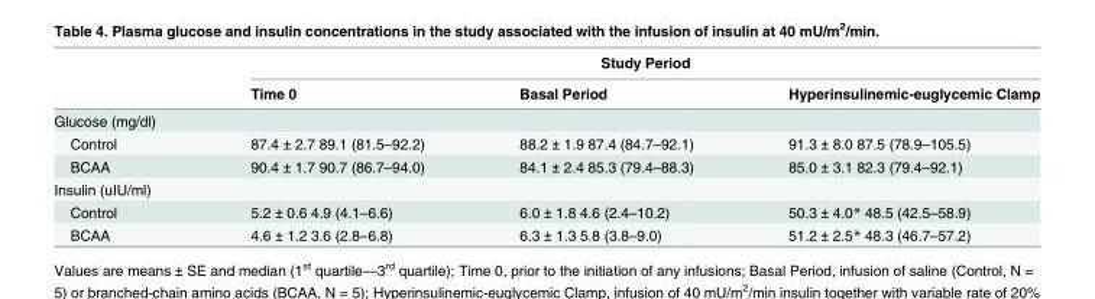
<table><thead><tr><td rowspan="2"></td><td colspan="3">Study Period</td></tr><tr><td>Time 0</td><td>Basal Period</td><td>Hyperinsulinemic-euglycemic Clamp</td></tr></thead><tbody><tr><td colspan="4">Glucose (mg/dl)</td></tr><tr><td>Control</td><td>87.4 ± 2.7 89.1 (81.5–92.2)</td><td>88.2 ± 1.9 87.4 (84.7–92.1)</td><td>91.3 ± 8.0 87.5 (78.9–105.5)</td></tr><tr><td>BCAA</td><td>90.4 ± 1.7 90.7 (86.7–94.0)</td><td>84.1 ± 2.4 85.3 (79.4–88.3)</td><td>85.0 ± 3.1 82.3 (79.4–92.1)</td></tr><tr><td colspan="4">Insulin (uIU/ml)</td></tr><tr><td>Control</td><td>5.2 ± 0.6 4.9 (4.1–6.6)</td><td>6.0 ± 1.8 4.6 (2.4–10.2)</td><td>50.3 ± 4.0* 48.5 (42.5–58.9)</td></tr><tr><td>BCAA</td><td>4.6 ± 1.2 3.6 (2.8–6.8)</td><td>6.3 ± 1.3 5.8 (3.8–9.0)</td><td>51.2 ± 2.5* 48.3 (46.7–57.2)</td></tr></tbody></table>